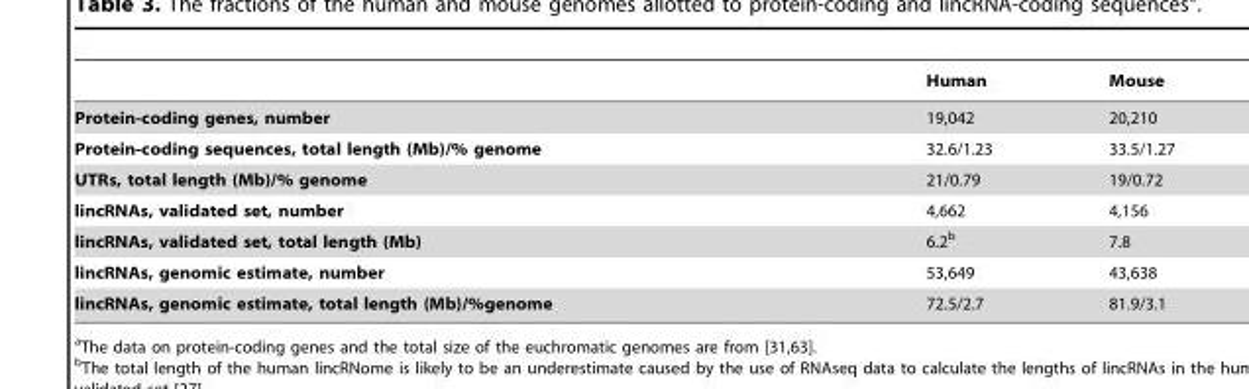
<table><thead><tr><td></td><td>Human</td><td>Mouse</td></tr></thead><tbody><tr><td>Protein-coding genes, number</td><td>19,042</td><td>20,210</td></tr><tr><td>Protein-coding sequences, total length (Mb)/% genome</td><td>32.6/1.23</td><td>33.5/1.27</td></tr><tr><td>UTRs, total length (Mb)/% genome</td><td>21/0.79</td><td>19/0.72</td></tr><tr><td>lincRNAs, validated set, number</td><td>4,662</td><td>4,156</td></tr><tr><td>lincRNAs, validated set, total length (Mb)</td><td>6.2<sup>b</sup></td><td>7.8</td></tr><tr><td>lincRNAs, genomic estimate, number</td><td>53,649</td><td>43,638</td></tr><tr><td>lincRNAs, genomic estimate, total length (Mb)/%genome</td><td>72.5/2.7</td><td>81.9/3.1</td></tr></tbody></table>